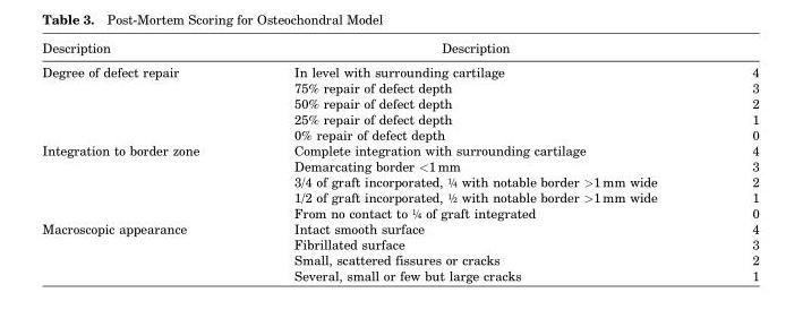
<table><thead><tr><td>Description</td><td>Description</td><td></td></tr></thead><tbody><tr><td rowspan="5">Degree of defect repair</td><td>In level with surrounding cartilage</td><td>4</td></tr><tr><td>75% repair of defect depth</td><td>3</td></tr><tr><td>50% repair of defect depth</td><td>2</td></tr><tr><td>25% repair of defect depth</td><td>1</td></tr><tr><td>0% repair of defect depth</td><td>0</td></tr><tr><td rowspan="5">Integration to border zone</td><td>Complete integration with surrounding cartilage</td><td>4</td></tr><tr><td>Demarcating border &lt;1 mm</td><td>3</td></tr><tr><td>3/4 of graft incorporated, 1 / 4 with notable border &gt;1 mm wide</td><td>2</td></tr><tr><td>1/2 of graft incorporated, 1 / 2 with notable border &gt;1 mm wide</td><td>1</td></tr><tr><td>From no contact to 1 / 4 of graft integrated</td><td>0</td></tr><tr><td rowspan="4">Macroscopic appearance</td><td>Intact smooth surface</td><td>4</td></tr><tr><td>Fibrillated surface</td><td>3</td></tr><tr><td>Small, scattered fissures or cracks</td><td>2</td></tr><tr><td>Several, small or few but large cracks</td><td>1</td></tr></tbody></table>